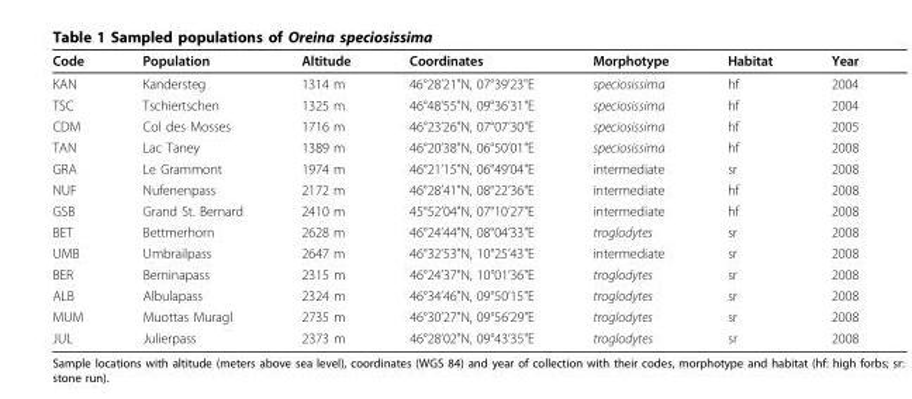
<table><thead><tr><td>Code</td><td>Population</td><td>Altitude</td><td>Coordinates</td><td>Morphotype</td><td>Habitat</td><td>Year</td></tr></thead><tbody><tr><td>KAN</td><td>Kandersteg</td><td>1314 m</td><td>46°28’21&quot;N, 07°39’23&quot;E</td><td>speciosissima</td><td>hf</td><td>2004</td></tr><tr><td>TSC</td><td>Tschiertschen</td><td>1325 m</td><td>46°48’55&quot;N, 09°36’31&quot;E</td><td>speciosissima</td><td>hf</td><td>2004</td></tr><tr><td>CDM</td><td>Col des Mosses</td><td>1716 m</td><td>46°23’26&quot;N, 07°07’30&quot;E</td><td>speciosissima</td><td>hf</td><td>2005</td></tr><tr><td>TAN</td><td>Lac Taney</td><td>1389 m</td><td>46°20’38&quot;N, 06°50’01&quot;E</td><td>speciosissima</td><td>hf</td><td>2008</td></tr><tr><td>GRA</td><td>Le Grammont</td><td>1974 m</td><td>46°21’15&quot;N, 06°49’04&quot;E</td><td>intermediate</td><td>sr</td><td>2008</td></tr><tr><td>NUF</td><td>Nufenenpass</td><td>2172 m</td><td>46°28’41&quot;N, 08°22’36&quot;E</td><td>intermediate</td><td>hf</td><td>2008</td></tr><tr><td>GSB</td><td>Grand St. Bernard</td><td>2410 m</td><td>45°52’04&quot;N, 07°10’27&quot;E</td><td>intermediate</td><td>hf</td><td>2008</td></tr><tr><td>BET</td><td>Bettmerhorn</td><td>2628 m</td><td>46°24’44&quot;N, 08°04’33&quot;E</td><td>troglodytes</td><td>sr</td><td>2008</td></tr><tr><td>UMB</td><td>Umbrailpass</td><td>2647 m</td><td>46°32’53&quot;N, 10°25’43&quot;E</td><td>intermediate</td><td>sr</td><td>2008</td></tr><tr><td>BER</td><td>Berninapass</td><td>2315 m</td><td>46°24’37&quot;N, 10°01’36&quot;E</td><td>troglodytes</td><td>sr</td><td>2008</td></tr><tr><td>ALB</td><td>Albulapass</td><td>2324 m</td><td>46°34’46&quot;N, 09°50’15&quot;E</td><td>troglodytes</td><td>sr</td><td>2008</td></tr><tr><td>MUM</td><td>Muottas Muragl</td><td>2735 m</td><td>46°30’27&quot;N, 09°56’29&quot;E</td><td>troglodytes</td><td>sr</td><td>2008</td></tr><tr><td>JUL</td><td>Julierpass</td><td>2373 m</td><td>46°28’02&quot;N, 09°43’35&quot;E</td><td>troglodytes</td><td>sr</td><td>2008</td></tr></tbody></table>